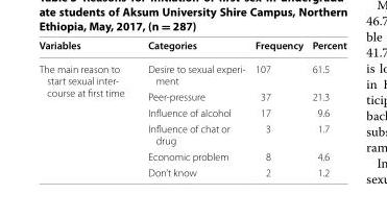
<table><thead><tr><td>Variables</td><td>Categories</td><td>Frequency</td><td>Percent</td></tr></thead><tbody><tr><td rowspan="6">The main reason to start sexual inter- course at first time</td><td>Desire to sexual experi- ment</td><td>107</td><td>61.5</td></tr><tr><td>Peer-pressure</td><td>37</td><td>21.3</td></tr><tr><td>Influence of alcohol</td><td>17</td><td>9.6</td></tr><tr><td>Influence of chat or drug</td><td>3</td><td>1.7</td></tr><tr><td>Economic problem</td><td>8</td><td>4.6</td></tr><tr><td>Don’t know</td><td>2</td><td>1.2</td></tr></tbody></table>